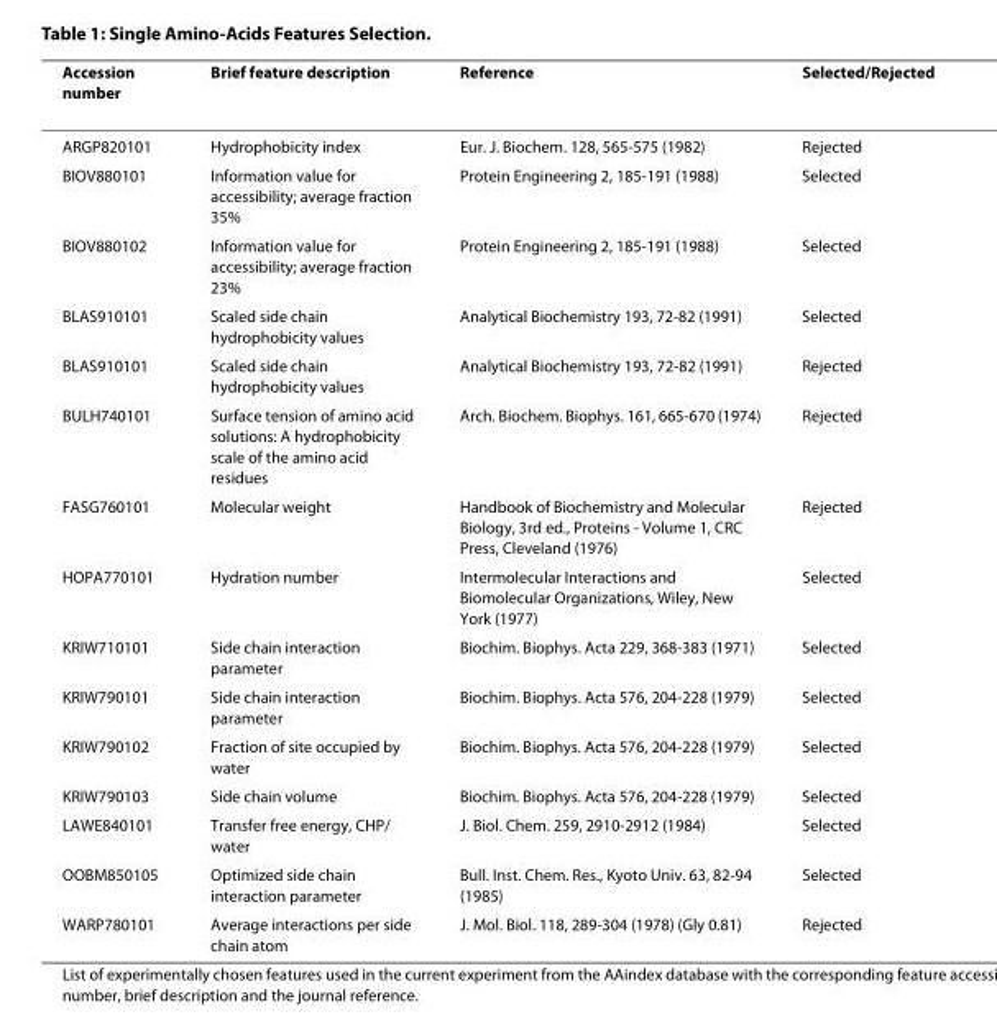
<table><thead><tr><td>Accession number</td><td>Brief feature description</td><td>Reference</td><td>Selected/Rejected</td></tr></thead><tbody><tr><td>ARGP820101</td><td>Hydrophobicity index</td><td>Eur. J. Biochem. 128, 565-575 (1982)</td><td>Rejected</td></tr><tr><td>BIOV880101</td><td>Information value for accessibility; average fraction 35%</td><td>Protein Engineering 2, 185-191 (1988)</td><td>Selected</td></tr><tr><td>BIOV880102</td><td>Information value for accessibility; average fraction 23%</td><td>Protein Engineering 2, 185-191 (1988)</td><td>Selected</td></tr><tr><td>BLAS910101</td><td>Scaled side chain hydrophobicity values</td><td>Analytical Biochemistry 193, 72-82 (1991)</td><td>Selected</td></tr><tr><td>BLAS910101</td><td>Scaled side chain hydrophobicity values</td><td>Analytical Biochemistry 193, 72-82 (1991)</td><td>Rejected</td></tr><tr><td>BULH740101</td><td>Surface tension of amino acid solutions: A hydrophobicity scale of the amino acid residues</td><td>Arch. Biochem. Biophys. 161, 665-670 (1974)</td><td>Rejected</td></tr><tr><td>FASG760101</td><td>Molecular weight</td><td>Handbook of Biochemistry and Molecular Biology, 3rd ed., Proteins - Volume 1, CRC Press, Cleveland (1976)</td><td>Rejected</td></tr><tr><td>HOPA770101</td><td>Hydration number</td><td>Intermolecular Interactions and Biomolecular Organizations, Wiley, New York (1977)</td><td>Selected</td></tr><tr><td>KRIW710101</td><td>Side chain interaction parameter</td><td>Biochim. Biophys. Acta 229, 368-383 (1971)</td><td>Selected</td></tr><tr><td>KRIW790101</td><td>Side chain interaction parameter</td><td>Biochim. Biophys. Acta 576, 204-228 (1979)</td><td>Selected</td></tr><tr><td>KRIW790102</td><td>Fraction of site occupied by water</td><td>Biochim. Biophys. Acta 576, 204-228 (1979)</td><td>Selected</td></tr><tr><td>KRIW790103</td><td>Side chain volume</td><td>Biochim. Biophys. Acta 576, 204-228 (1979)</td><td>Selected</td></tr><tr><td>LAWE840101</td><td>Transfer free energy, CHP/ water</td><td>J. Biol. Chem. 259, 2910-2912 (1984)</td><td>Selected</td></tr><tr><td>OOBM850105</td><td>Optimized side chain interaction parameter</td><td>Bull. Inst. Chem. Res., Kyoto Univ. 63, 82-94 (1985)</td><td>Selected</td></tr><tr><td>WARP780101</td><td>Average interactions per side chain atom</td><td>J. Mol. Biol. 118, 289-304 (1978) (Gly 0.81)</td><td>Rejected</td></tr></tbody></table>